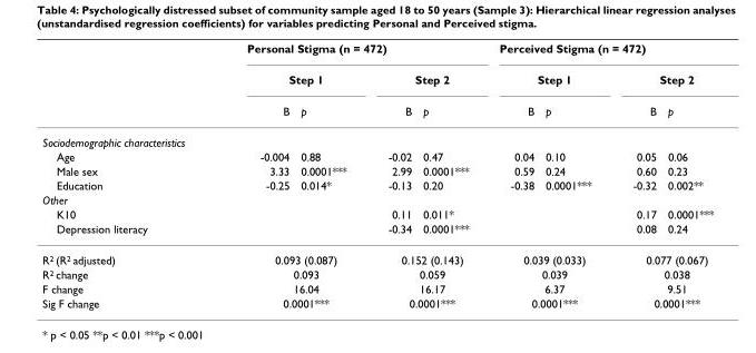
<table><thead><tr><td rowspan="3"></td><td colspan="4">Personal Stigma (n = 472)</td><td colspan="4">Perceived Stigma (n = 472)</td></tr><tr><td colspan="2">Step 1</td><td colspan="2">Step 2</td><td colspan="2">Step 1</td><td colspan="2">Step 2</td></tr><tr><td>B</td><td>p</td><td>B</td><td>p</td><td>B</td><td>p</td><td>B</td><td>p</td></tr></thead><tbody><tr><td colspan="9">Sociodemographic characteristics</td></tr><tr><td>Age</td><td>-0.004</td><td>0.88</td><td>-0.02</td><td>0.47</td><td>0.04</td><td>0.10</td><td>0.05</td><td>0.06</td></tr><tr><td>Male sex</td><td>3.33</td><td>0.0001***</td><td>2.99</td><td>0.0001***</td><td>0.59</td><td>0.24</td><td>0.60</td><td>0.23</td></tr><tr><td>Education</td><td>-0.25</td><td>0.014*</td><td>-0.13</td><td>0.20</td><td>-0.38</td><td>0.0001***</td><td>-0.32</td><td>0.002**</td></tr><tr><td colspan="9">Other</td></tr><tr><td>K10</td><td></td><td></td><td>0.11</td><td>0.011*</td><td></td><td></td><td>0.17</td><td>0.0001***</td></tr><tr><td>Depression literacy</td><td></td><td></td><td>-0.34</td><td>0.0001***</td><td></td><td></td><td>0.08</td><td>0.24</td></tr><tr><td>R<sup>2</sup> (R<sup>2</sup> adjusted)</td><td colspan="2">0.093 (0.087)</td><td colspan="2">0.152 (0.143)</td><td colspan="2">0.039 (0.033)</td><td colspan="2">0.077 (0.067)</td></tr><tr><td>R<sup>2</sup> change</td><td colspan="2">0.093</td><td colspan="2">0.059</td><td colspan="2">0.039</td><td colspan="2">0.038</td></tr><tr><td>F change</td><td colspan="2">16.04</td><td colspan="2">16.17</td><td colspan="2">6.37</td><td colspan="2">9.51</td></tr><tr><td>Sig F change</td><td colspan="2">0.0001***</td><td colspan="2">0.0001***</td><td colspan="2">0.0001***</td><td colspan="2">0.0001***</td></tr></tbody></table>